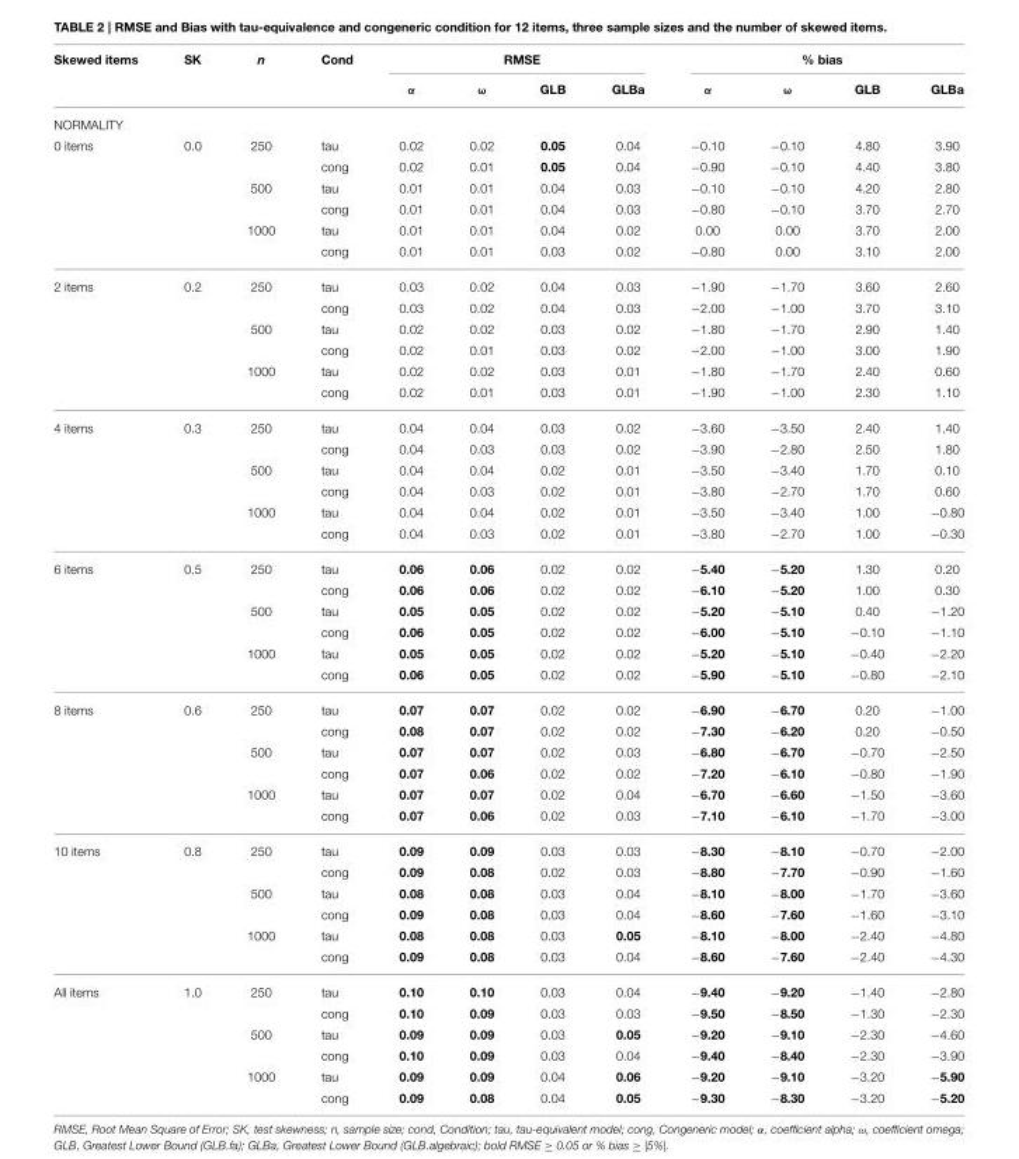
<table><thead><tr><td rowspan="2">Skewed items</td><td rowspan="2">SK</td><td rowspan="2">n</td><td rowspan="2">Cond</td><td colspan="4">RMSE</td><td colspan="4">% bias</td></tr><tr><td>α</td><td>ω</td><td>GLB</td><td>GLBa</td><td>α</td><td>ω</td><td>GLB</td><td>GLBa</td></tr></thead><tbody><tr><td colspan="12">NORMALITY</td></tr><tr><td rowspan="6">0 items</td><td>0.0</td><td>250</td><td>tau</td><td>0.02</td><td>0.02</td><td>0.05</td><td>0.04</td><td>−0.10</td><td>−0.10</td><td>4.80</td><td>3.90</td></tr><tr><td></td><td></td><td>cong</td><td>0.02</td><td>0.01</td><td>0.05</td><td>0.04</td><td>−0.90</td><td>−0.10</td><td>4.40</td><td>3.80</td></tr><tr><td></td><td>500</td><td>tau</td><td>0.01</td><td>0.01</td><td>0.04</td><td>0.03</td><td>−0.10</td><td>−0.10</td><td>4.20</td><td>2.80</td></tr><tr><td></td><td></td><td>cong</td><td>0.01</td><td>0.01</td><td>0.04</td><td>0.03</td><td>−0.80</td><td>−0.10</td><td>3.70</td><td>2.70</td></tr><tr><td></td><td>1000</td><td>tau</td><td>0.01</td><td>0.01</td><td>0.04</td><td>0.02</td><td>0.00</td><td>0.00</td><td>3.70</td><td>2.00</td></tr><tr><td></td><td></td><td>cong</td><td>0.01</td><td>0.01</td><td>0.03</td><td>0.02</td><td>−0.80</td><td>0.00</td><td>3.10</td><td>2.00</td></tr><tr><td rowspan="6">2 items</td><td>0.2</td><td>250</td><td>tau</td><td>0.03</td><td>0.02</td><td>0.04</td><td>0.03</td><td>−1.90</td><td>−1.70</td><td>3.60</td><td>2.60</td></tr><tr><td></td><td></td><td>cong</td><td>0.03</td><td>0.02</td><td>0.04</td><td>0.03</td><td>−2.00</td><td>−1.00</td><td>3.70</td><td>3.10</td></tr><tr><td></td><td>500</td><td>tau</td><td>0.02</td><td>0.02</td><td>0.03</td><td>0.02</td><td>−1.80</td><td>−1.70</td><td>2.90</td><td>1.40</td></tr><tr><td></td><td></td><td>cong</td><td>0.02</td><td>0.01</td><td>0.03</td><td>0.02</td><td>−2.00</td><td>−1.00</td><td>3.00</td><td>1.90</td></tr><tr><td></td><td>1000</td><td>tau</td><td>0.02</td><td>0.02</td><td>0.03</td><td>0.01</td><td>−1.80</td><td>−1.70</td><td>2.40</td><td>0.60</td></tr><tr><td></td><td></td><td>cong</td><td>0.02</td><td>0.01</td><td>0.03</td><td>0.01</td><td>−1.90</td><td>−1.00</td><td>2.30</td><td>1.10</td></tr><tr><td rowspan="6">4 items</td><td>0.3</td><td>250</td><td>tau</td><td>0.04</td><td>0.04</td><td>0.03</td><td>0.02</td><td>−3.60</td><td>−3.50</td><td>2.40</td><td>1.40</td></tr><tr><td></td><td></td><td>cong</td><td>0.04</td><td>0.03</td><td>0.03</td><td>0.02</td><td>−3.90</td><td>−2.80</td><td>2.50</td><td>1.80</td></tr><tr><td></td><td>500</td><td>tau</td><td>0.04</td><td>0.04</td><td>0.02</td><td>0.01</td><td>−3.50</td><td>−3.40</td><td>1.70</td><td>0.10</td></tr><tr><td></td><td></td><td>cong</td><td>0.04</td><td>0.03</td><td>0.02</td><td>0.01</td><td>−3.80</td><td>−2.70</td><td>1.70</td><td>0.60</td></tr><tr><td></td><td>1000</td><td>tau</td><td>0.04</td><td>0.04</td><td>0.02</td><td>0.01</td><td>−3.50</td><td>−3.40</td><td>1.00</td><td>−0.80</td></tr><tr><td></td><td></td><td>cong</td><td>0.04</td><td>0.03</td><td>0.02</td><td>0.01</td><td>−3.80</td><td>−2.70</td><td>1.00</td><td>−0.30</td></tr><tr><td rowspan="6">6 items</td><td>0.5</td><td>250</td><td>tau</td><td>0.06</td><td>0.06</td><td>0.02</td><td>0.02</td><td>−5.40</td><td>−5.20</td><td>1.30</td><td>0.20</td></tr><tr><td></td><td></td><td>cong</td><td>0.06</td><td>0.06</td><td>0.02</td><td>0.02</td><td>−6.10</td><td>−5.20</td><td>1.00</td><td>0.30</td></tr><tr><td></td><td>500</td><td>tau</td><td>0.05</td><td>0.05</td><td>0.02</td><td>0.02</td><td>−5.20</td><td>−5.10</td><td>0.40</td><td>−1.20</td></tr><tr><td></td><td></td><td>cong</td><td>0.06</td><td>0.05</td><td>0.02</td><td>0.02</td><td>−6.00</td><td>−5.10</td><td>−0.10</td><td>−1.10</td></tr><tr><td></td><td>1000</td><td>tau</td><td>0.05</td><td>0.05</td><td>0.02</td><td>0.02</td><td>−5.20</td><td>−5.10</td><td>−0.40</td><td>−2.20</td></tr><tr><td></td><td></td><td>cong</td><td>0.06</td><td>0.05</td><td>0.02</td><td>0.02</td><td>−5.90</td><td>−5.10</td><td>−0.80</td><td>−2.10</td></tr><tr><td rowspan="6">8 items</td><td>0.6</td><td>250</td><td>tau</td><td>0.07</td><td>0.07</td><td>0.02</td><td>0.02</td><td>−6.90</td><td>−6.70</td><td>0.20</td><td>−1.00</td></tr><tr><td></td><td></td><td>cong</td><td>0.08</td><td>0.07</td><td>0.02</td><td>0.02</td><td>−7.30</td><td>−6.20</td><td>0.20</td><td>−0.50</td></tr><tr><td></td><td>500</td><td>tau</td><td>0.07</td><td>0.07</td><td>0.02</td><td>0.03</td><td>−6.80</td><td>−6.70</td><td>−0.70</td><td>−2.50</td></tr><tr><td></td><td></td><td>cong</td><td>0.07</td><td>0.06</td><td>0.02</td><td>0.02</td><td>−7.20</td><td>−6.10</td><td>−0.80</td><td>−1.90</td></tr><tr><td></td><td>1000</td><td>tau</td><td>0.07</td><td>0.07</td><td>0.02</td><td>0.04</td><td>−6.70</td><td>−6.60</td><td>−1.50</td><td>−3.60</td></tr><tr><td></td><td></td><td>cong</td><td>0.07</td><td>0.06</td><td>0.02</td><td>0.03</td><td>−7.10</td><td>−6.10</td><td>−1.70</td><td>−3.00</td></tr><tr><td rowspan="6">10 items</td><td>0.8</td><td>250</td><td>tau</td><td>0.09</td><td>0.09</td><td>0.03</td><td>0.03</td><td>−8.30</td><td>−8.10</td><td>−0.70</td><td>−2.00</td></tr><tr><td></td><td></td><td>cong</td><td>0.09</td><td>0.08</td><td>0.02</td><td>0.03</td><td>−8.80</td><td>−7.70</td><td>−0.90</td><td>−1.60</td></tr><tr><td></td><td>500</td><td>tau</td><td>0.08</td><td>0.08</td><td>0.03</td><td>0.04</td><td>−8.10</td><td>−8.00</td><td>−1.70</td><td>−3.60</td></tr><tr><td></td><td></td><td>cong</td><td>0.09</td><td>0.08</td><td>0.03</td><td>0.04</td><td>−8.60</td><td>−7.60</td><td>−1.60</td><td>−3.10</td></tr><tr><td></td><td>1000</td><td>tau</td><td>0.08</td><td>0.08</td><td>0.03</td><td>0.05</td><td>−8.10</td><td>−8.00</td><td>−2.40</td><td>−4.80</td></tr><tr><td></td><td></td><td>cong</td><td>0.09</td><td>0.08</td><td>0.03</td><td>0.04</td><td>−8.60</td><td>−7.60</td><td>−2.40</td><td>−4.30</td></tr><tr><td rowspan="6">All items</td><td>1.0</td><td>250</td><td>tau</td><td>0.10</td><td>0.10</td><td>0.03</td><td>0.04</td><td>−9.40</td><td>−9.20</td><td>−1.40</td><td>−2.80</td></tr><tr><td></td><td></td><td>cong</td><td>0.10</td><td>0.09</td><td>0.03</td><td>0.03</td><td>−9.50</td><td>−8.50</td><td>−1.30</td><td>−2.30</td></tr><tr><td></td><td>500</td><td>tau</td><td>0.09</td><td>0.09</td><td>0.03</td><td>0.05</td><td>−9.20</td><td>−9.10</td><td>−2.30</td><td>−4.60</td></tr><tr><td></td><td></td><td>cong</td><td>0.10</td><td>0.09</td><td>0.03</td><td>0.04</td><td>−9.40</td><td>−8.40</td><td>−2.30</td><td>−3.90</td></tr><tr><td></td><td>1000</td><td>tau</td><td>0.09</td><td>0.09</td><td>0.04</td><td>0.06</td><td>−9.20</td><td>−9.10</td><td>−3.20</td><td>−5.90</td></tr><tr><td></td><td></td><td>cong</td><td>0.09</td><td>0.08</td><td>0.04</td><td>0.05</td><td>−9.30</td><td>−8.30</td><td>−3.20</td><td>−5.20</td></tr></tbody></table>